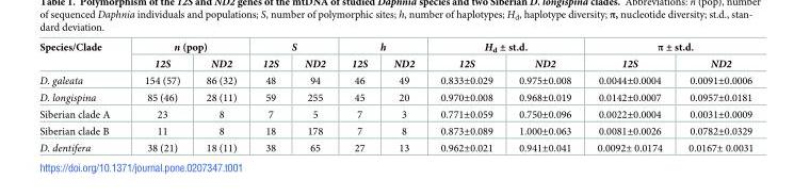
<table><thead><tr><td rowspan="2">Species/Clade</td><td colspan="2">n (pop)</td><td colspan="2">S</td><td colspan="2">h</td><td colspan="2">H<sub>d</sub> ± st.d.</td><td colspan="2">π ± st.d.</td></tr><tr><td>12S</td><td>ND2</td><td>12S</td><td>ND2</td><td>12S</td><td>ND2</td><td>12S</td><td>ND2</td><td>12S</td><td>ND2</td></tr></thead><tbody><tr><td>D. galeata</td><td>154 (57)</td><td>86 (32)</td><td>48</td><td>94</td><td>46</td><td>49</td><td>0.833±0.029</td><td>0.975±0.008</td><td>0.0044±0.0004</td><td>0.0091±0.0006</td></tr><tr><td>D. longispina</td><td>85 (46)</td><td>28 (11)</td><td>59</td><td>255</td><td>45</td><td>20</td><td>0.970±0.008</td><td>0.968±0.019</td><td>0.0142±0.0007</td><td>0.0957±0.0181</td></tr><tr><td>Siberian clade A</td><td>23</td><td>8</td><td>7</td><td>5</td><td>7</td><td>3</td><td>0.771±0.059</td><td>0.750±0.096</td><td>0.0022±0.0004</td><td>0.0031±0.0009</td></tr><tr><td>Siberian clade B</td><td>11</td><td>8</td><td>18</td><td>178</td><td>7</td><td>8</td><td>0.873±0.089</td><td>1.000±0.063</td><td>0.0081±0.0026</td><td>0.0782±0.0329</td></tr><tr><td>D. dentifera</td><td>38 (21)</td><td>18 (11)</td><td>38</td><td>65</td><td>27</td><td>13</td><td>0.962±0.021</td><td>0.941±0.041</td><td>0.0092± 0.0174</td><td>0.0167± 0.0031</td></tr></tbody></table>